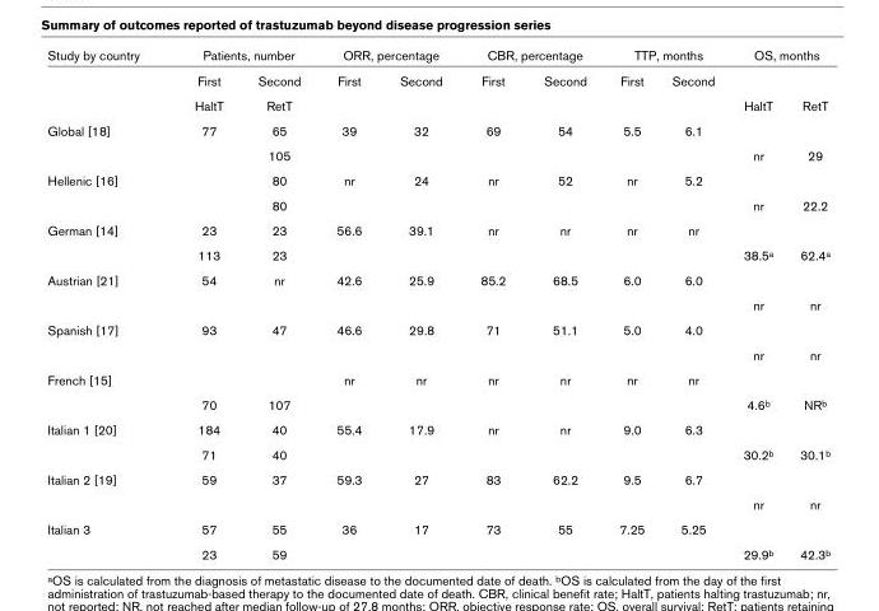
<table><thead><tr><td rowspan="2">Study by country</td><td colspan="2">Patients, number</td><td colspan="2">ORR, percentage</td><td colspan="2">CBR, percentage</td><td colspan="2">TTP, months</td><td colspan="2">OS, months</td></tr><tr><td>First</td><td>Second</td><td>First</td><td>Second</td><td>First</td><td>Second</td><td>First</td><td>Second</td><td></td><td></td></tr></thead><tbody><tr><td></td><td>HaltT</td><td>RetT</td><td></td><td></td><td></td><td></td><td></td><td></td><td>HaltT</td><td>RetT</td></tr><tr><td rowspan="2">Global [18]</td><td>77</td><td>65</td><td>39</td><td>32</td><td>69</td><td>54</td><td>5.5</td><td>6.1</td><td></td><td></td></tr><tr><td></td><td>105</td><td></td><td></td><td></td><td></td><td></td><td></td><td>nr</td><td>29</td></tr><tr><td rowspan="2">Hellenic [16]</td><td></td><td>80</td><td>nr</td><td>24</td><td>nr</td><td>52</td><td>nr</td><td>5.2</td><td></td><td></td></tr><tr><td></td><td>80</td><td></td><td></td><td></td><td></td><td></td><td></td><td>nr</td><td>22.2</td></tr><tr><td rowspan="2">German [14]</td><td>23</td><td>23</td><td>56.6</td><td>39.1</td><td>nr</td><td>nr</td><td>nr</td><td>nr</td><td></td><td></td></tr><tr><td>113</td><td>23</td><td></td><td></td><td></td><td></td><td></td><td></td><td>38.5<sup>a</sup></td><td>62.4<sup>a</sup></td></tr><tr><td rowspan="2">Austrian [21]</td><td>54</td><td>nr</td><td>42.6</td><td>25.9</td><td>85.2</td><td>68.5</td><td>6.0</td><td>6.0</td><td></td><td></td></tr><tr><td></td><td></td><td></td><td></td><td></td><td></td><td></td><td></td><td>nr</td><td>nr</td></tr><tr><td rowspan="2">Spanish [17]</td><td>93</td><td>47</td><td>46.6</td><td>29.8</td><td>71</td><td>51.1</td><td>5.0</td><td>4.0</td><td></td><td></td></tr><tr><td></td><td></td><td></td><td></td><td></td><td></td><td></td><td></td><td>nr</td><td>nr</td></tr><tr><td rowspan="2">French [15]</td><td></td><td></td><td>nr</td><td>nr</td><td>nr</td><td>nr</td><td>nr</td><td>nr</td><td></td><td></td></tr><tr><td>70</td><td>107</td><td></td><td></td><td></td><td></td><td></td><td></td><td>4.6<sup>b</sup></td><td>NR<sup>b</sup></td></tr><tr><td rowspan="2">Italian 1 [20]</td><td>184</td><td>40</td><td>55.4</td><td>17.9</td><td>nr</td><td>nr</td><td>9.0</td><td>6.3</td><td></td><td></td></tr><tr><td>71</td><td>40</td><td></td><td></td><td></td><td></td><td></td><td></td><td>30.2<sup>b</sup></td><td>30.1<sup>b</sup></td></tr><tr><td rowspan="2">Italian 2 [19]</td><td>59</td><td>37</td><td>59.3</td><td>27</td><td>83</td><td>62.2</td><td>9.5</td><td>6.7</td><td></td><td></td></tr><tr><td></td><td></td><td></td><td></td><td></td><td></td><td></td><td></td><td>nr</td><td>nr</td></tr><tr><td rowspan="2">Italian 3</td><td>57</td><td>55</td><td>36</td><td>17</td><td>73</td><td>55</td><td>7.25</td><td>5.25</td><td></td><td></td></tr><tr><td>23</td><td>59</td><td></td><td></td><td></td><td></td><td></td><td></td><td>29.9<sup>b</sup></td><td>42.3<sup>b</sup></td></tr></tbody></table>